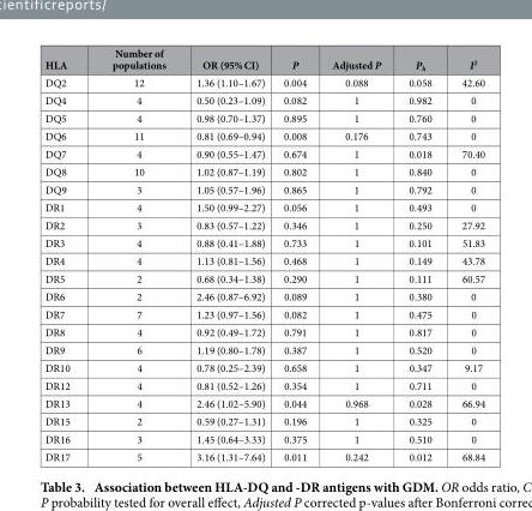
<table><thead><tr><td>HLA</td><td>Number of populations</td><td>OR (95% CI)</td><td>P</td><td>Adjusted P</td><td>P<sub>h</sub></td><td>I<sup>2</sup></td></tr></thead><tbody><tr><td>DQ2</td><td>12</td><td>1.36 (1.10–1.67)</td><td>0.004</td><td>0.088</td><td>0.058</td><td>42.60</td></tr><tr><td>DQ4</td><td>4</td><td>0.50 (0.23–1.09)</td><td>0.082</td><td>1</td><td>0.982</td><td>0</td></tr><tr><td>DQ5</td><td>4</td><td>0.98 (0.70–1.37)</td><td>0.895</td><td>1</td><td>0.760</td><td>0</td></tr><tr><td>DQ6</td><td>11</td><td>0.81 (0.69–0.94)</td><td>0.008</td><td>0.176</td><td>0.743</td><td>0</td></tr><tr><td>DQ7</td><td>4</td><td>0.90 (0.55–1.47)</td><td>0.674</td><td>1</td><td>0.018</td><td>70.40</td></tr><tr><td>DQ8</td><td>10</td><td>1.02 (0.87–1.19)</td><td>0.802</td><td>1</td><td>0.840</td><td>0</td></tr><tr><td>DQ9</td><td>3</td><td>1.05 (0.57–1.96)</td><td>0.865</td><td>1</td><td>0.792</td><td>0</td></tr><tr><td>DR1</td><td>4</td><td>1.50 (0.99–2.27)</td><td>0.056</td><td>1</td><td>0.493</td><td>0</td></tr><tr><td>DR2</td><td>3</td><td>0.83 (0.57–1.22)</td><td>0.346</td><td>1</td><td>0.250</td><td>27.92</td></tr><tr><td>DR3</td><td>4</td><td>0.88 (0.41–1.88)</td><td>0.733</td><td>1</td><td>0.101</td><td>51.83</td></tr><tr><td>DR4</td><td>4</td><td>1.13 (0.81–1.56)</td><td>0.468</td><td>1</td><td>0.149</td><td>43.78</td></tr><tr><td>DR5</td><td>2</td><td>0.68 (0.34–1.38)</td><td>0.290</td><td>1</td><td>0.111</td><td>60.57</td></tr><tr><td>DR6</td><td>2</td><td>2.46 (0.87–6.92)</td><td>0.089</td><td>1</td><td>0.380</td><td>0</td></tr><tr><td>DR7</td><td>7</td><td>1.23 (0.97–1.56)</td><td>0.082</td><td>1</td><td>0.475</td><td>0</td></tr><tr><td>DR8</td><td>4</td><td>0.92 (0.49–1.72)</td><td>0.791</td><td>1</td><td>0.817</td><td>0</td></tr><tr><td>DR9</td><td>6</td><td>1.19 (0.80–1.78)</td><td>0.387</td><td>1</td><td>0.520</td><td>0</td></tr><tr><td>DR10</td><td>4</td><td>0.78 (0.25–2.39)</td><td>0.658</td><td>1</td><td>0.347</td><td>9.17</td></tr><tr><td>DR12</td><td>4</td><td>0.81 (0.52–1.26)</td><td>0.354</td><td>1</td><td>0.711</td><td>0</td></tr><tr><td>DR13</td><td>4</td><td>2.46 (1.02–5.90)</td><td>0.044</td><td>0.968</td><td>0.028</td><td>66.94</td></tr><tr><td>DR15</td><td>2</td><td>0.59 (0.27–1.31)</td><td>0.196</td><td>1</td><td>0.325</td><td>0</td></tr><tr><td>DR16</td><td>3</td><td>1.45 (0.64–3.33)</td><td>0.375</td><td>1</td><td>0.510</td><td>0</td></tr><tr><td>DR17</td><td>5</td><td>3.16 (1.31–7.64)</td><td>0.011</td><td>0.242</td><td>0.012</td><td>68.84</td></tr></tbody></table>